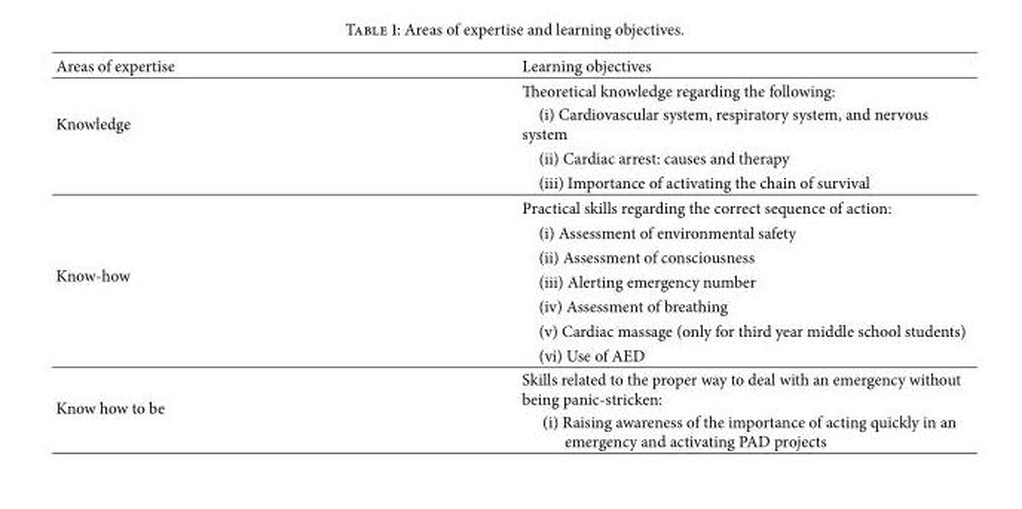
<table><thead><tr><td>Areas of expertise</td><td>Learning objectives</td></tr></thead><tbody><tr><td rowspan="4">Knowledge</td><td>Theoretical knowledge regarding the following:</td></tr><tr><td>(i) Cardiovascular system, respiratory system, and nervous system</td></tr><tr><td>(ii) Cardiac arrest: causes and therapy</td></tr><tr><td>(iii) Importance of activating the chain of survival</td></tr><tr><td rowspan="7">Know-how</td><td>Practical skills regarding the correct sequence of action:</td></tr><tr><td>(i) Assessment of environmental safety</td></tr><tr><td>(ii) Assessment of consciousness</td></tr><tr><td>(iii) Alerting emergency number</td></tr><tr><td>(iv) Assessment of breathing</td></tr><tr><td>(v) Cardiac massage (only for third year middle school students)</td></tr><tr><td>(vi) Use of AED</td></tr><tr><td rowspan="2">Know how to be</td><td>Skills related to the proper way to deal with an emergency without being panic-stricken:</td></tr><tr><td>(i) Raising awareness of the importance of acting quickly in an emergency and activating PAD projects</td></tr></tbody></table>